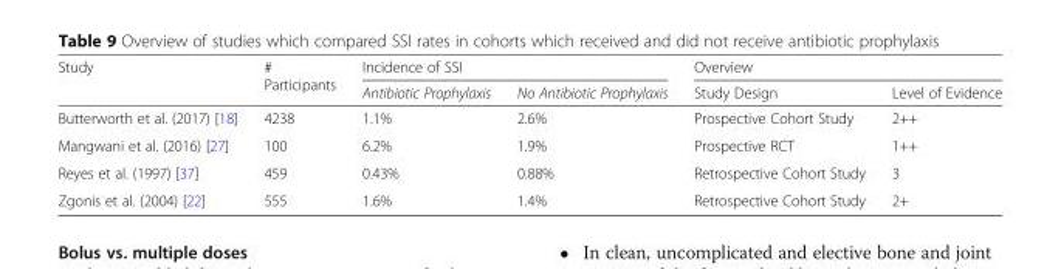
<table><thead><tr><td rowspan="2">Study</td><td rowspan="2"># Participants</td><td colspan="2">Incidence of SSI</td><td colspan="2">Overview</td></tr><tr><td>Antibiotic Prophylaxis</td><td>No Antibiotic Prophylaxis</td><td>Study Design</td><td>Level of Evidence</td></tr></thead><tbody><tr><td>Butterworth et al. (2017) [18]</td><td>4238</td><td>1.1%</td><td>2.6%</td><td>Prospective Cohort Study</td><td>2++</td></tr><tr><td>Mangwani et al. (2016) [27]</td><td>100</td><td>6.2%</td><td>1.9%</td><td>Prospective RCT</td><td>1++</td></tr><tr><td>Reyes et al. (1997) [37]</td><td>459</td><td>0.43%</td><td>0.88%</td><td>Retrospective Cohort Study</td><td>3</td></tr><tr><td>Zgonis et al. (2004) [22]</td><td>555</td><td>1.6%</td><td>1.4%</td><td>Retrospective Cohort Study</td><td>2+</td></tr></tbody></table>